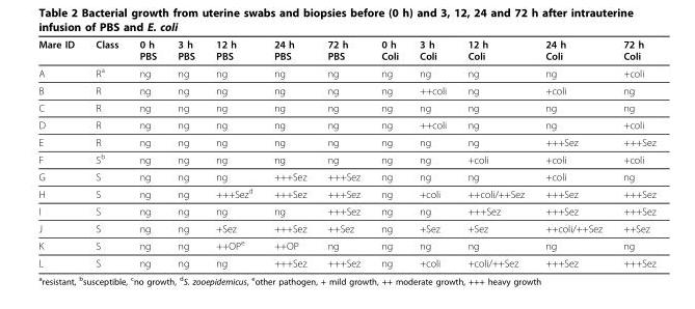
<table><thead><tr><td>Mare ID</td><td>Class</td><td>0 h PBS</td><td>3 h PBS</td><td>12 h PBS</td><td>24 h PBS</td><td>72 h PBS</td><td>0 h Coli</td><td>3 h Coli</td><td>12 h Coli</td><td>24 h Coli</td><td>72 h Coli</td></tr></thead><tbody><tr><td>A</td><td>R<sup>a</sup></td><td>ng</td><td>ng</td><td>ng</td><td>ng</td><td>ng</td><td>ng</td><td>ng</td><td>ng</td><td>ng</td><td>+coli</td></tr><tr><td>B</td><td>R</td><td>ng</td><td>ng</td><td>ng</td><td>ng</td><td>ng</td><td>ng</td><td>++coli</td><td>ng</td><td>+coli</td><td>ng</td></tr><tr><td>C</td><td>R</td><td>ng</td><td>ng</td><td>ng</td><td>ng</td><td>ng</td><td>ng</td><td>ng</td><td>ng</td><td>ng</td><td>ng</td></tr><tr><td>D</td><td>R</td><td>ng</td><td>ng</td><td>ng</td><td>ng</td><td>ng</td><td>ng</td><td>++coli</td><td>ng</td><td>ng</td><td>+coli</td></tr><tr><td>E</td><td>R</td><td>ng</td><td>ng</td><td>ng</td><td>ng</td><td>ng</td><td>ng</td><td>ng</td><td>ng</td><td>+++Sez</td><td>+++Sez</td></tr><tr><td>F</td><td>S<sup>b</sup></td><td>ng</td><td>ng</td><td>ng</td><td>ng</td><td>ng</td><td>ng</td><td>ng</td><td>+coli</td><td>+coli</td><td>+coli</td></tr><tr><td>G</td><td>S</td><td>ng</td><td>ng</td><td>ng</td><td>+++Sez</td><td>+++Sez</td><td>ng</td><td>ng</td><td>ng</td><td>+coli</td><td>ng</td></tr><tr><td>H</td><td>S</td><td>ng</td><td>ng</td><td>+++Sez<sup>d</sup></td><td>+++Sez</td><td>+++Sez</td><td>ng</td><td>+coli</td><td>++coli/++Sez</td><td>+++Sez</td><td>+++Sez</td></tr><tr><td>I</td><td>S</td><td>ng</td><td>ng</td><td>ng</td><td>ng</td><td>+++Sez</td><td>ng</td><td>ng</td><td>+++Sez</td><td>+++Sez</td><td>+++Sez</td></tr><tr><td>J</td><td>S</td><td>ng</td><td>ng</td><td>+Sez</td><td>+++Sez</td><td>++Sez</td><td>ng</td><td>+Sez</td><td>+Sez</td><td>++coli/++Sez</td><td>++Sez</td></tr><tr><td>K</td><td>S</td><td>ng</td><td>ng</td><td>++OP<sup>e</sup></td><td>++OP</td><td>ng</td><td>ng</td><td>ng</td><td>ng</td><td>ng</td><td>ng</td></tr><tr><td>L</td><td>S</td><td>ng</td><td>ng</td><td>ng</td><td>+++Sez</td><td>+++Sez</td><td>ng</td><td>+coli</td><td>+coli/++Sez</td><td>+++Sez</td><td>+++Sez</td></tr></tbody></table>